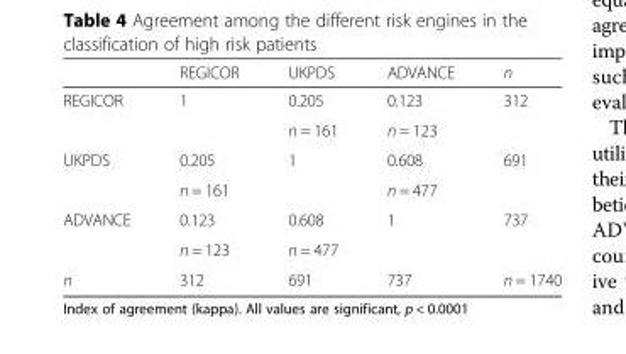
<table><thead><tr><td></td><td>REGICOR</td><td>UKPDS</td><td>ADVANCE</td><td>n</td></tr></thead><tbody><tr><td rowspan="2">REGICOR</td><td rowspan="2">1</td><td>0.205</td><td>0.123</td><td rowspan="2">312</td></tr><tr><td>n = 161</td><td>n = 123</td></tr><tr><td rowspan="2">UKPDS</td><td>0.205</td><td rowspan="2">1</td><td>0.608</td><td rowspan="2">691</td></tr><tr><td>n = 161</td><td>n = 477</td></tr><tr><td rowspan="2">ADVANCE</td><td>0.123</td><td>0.608</td><td rowspan="2">1</td><td rowspan="2">737</td></tr><tr><td>n = 123</td><td>n = 477</td></tr><tr><td>n</td><td>312</td><td>691</td><td>737</td><td>n = 1740</td></tr></tbody></table>